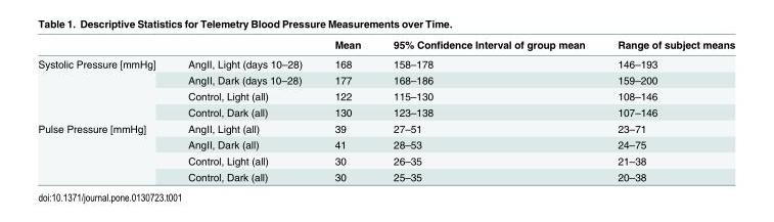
<table><thead><tr><td></td><td></td><td>Mean</td><td>95% Confidence Interval of group mean</td><td>Range of subject means</td></tr></thead><tbody><tr><td rowspan="4">Systolic Pressure [mmHg]</td><td>AngII, Light (days 10–28)</td><td>168</td><td>158–178</td><td>146–193</td></tr><tr><td>AngII, Dark (days 10–28)</td><td>177</td><td>168–186</td><td>159–200</td></tr><tr><td>Control, Light (all)</td><td>122</td><td>115–130</td><td>108–146</td></tr><tr><td>Control, Dark (all)</td><td>130</td><td>123–138</td><td>107–146</td></tr><tr><td rowspan="4">Pulse Pressure [mmHg]</td><td>AngII, Light (all)</td><td>39</td><td>27–51</td><td>23–71</td></tr><tr><td>AngII, Dark (all)</td><td>41</td><td>28–53</td><td>24–75</td></tr><tr><td>Control, Light (all)</td><td>30</td><td>26–35</td><td>21–38</td></tr><tr><td>Control, Dark (all)</td><td>30</td><td>25–35</td><td>20–38</td></tr></tbody></table>